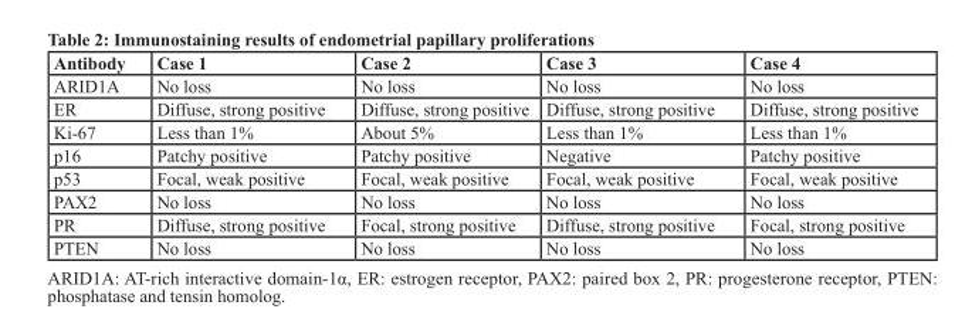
<table><thead><tr><td>Antibody</td><td>Case 1</td><td>Case 2</td><td>Case 3</td><td>Case 4</td></tr></thead><tbody><tr><td>ARID1A</td><td>No loss</td><td>No loss</td><td>No loss</td><td>No loss</td></tr><tr><td>ER</td><td>Diffuse, strong positive</td><td>Diffuse, strong positive</td><td>Diffuse, strong positive</td><td>Diffuse, strong positive</td></tr><tr><td>Ki-67</td><td>Less than 1%</td><td>About 5%</td><td>Less than 1%</td><td>Less than 1%</td></tr><tr><td>p16</td><td>Patchy positive</td><td>Patchy positive</td><td>Negative</td><td>Patchy positive</td></tr><tr><td>p53</td><td>Focal, weak positive</td><td>Focal, weak positive</td><td>Focal, weak positive</td><td>Focal, weak positive</td></tr><tr><td>PAX2</td><td>No loss</td><td>No loss</td><td>No loss</td><td>No loss</td></tr><tr><td>PR</td><td>Diffuse, strong positive</td><td>Focal, strong positive</td><td>Diffuse, strong positive</td><td>Focal, strong positive</td></tr><tr><td>PTEN</td><td>No loss</td><td>No loss</td><td>No loss</td><td>No loss</td></tr></tbody></table>